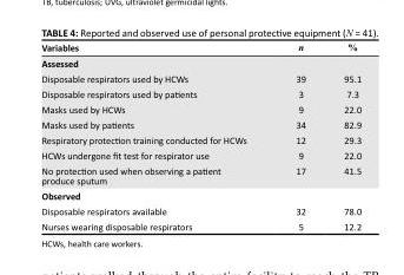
<table><thead><tr><td>Variables</td><td>n</td><td>%</td></tr></thead><tbody><tr><td colspan="3">Assessed</td></tr><tr><td>Disposable respirators used by HCWs</td><td>39</td><td>95.1</td></tr><tr><td>Disposable respirators used by patients</td><td>3</td><td>7.3</td></tr><tr><td>Masks used by HCWs</td><td>9</td><td>22.0</td></tr><tr><td>Masks used by patients</td><td>34</td><td>82.9</td></tr><tr><td>Respiratory protection training conducted for HCWs</td><td>12</td><td>29.3</td></tr><tr><td>HCWs undergone fit test for respirator use</td><td>9</td><td>22.0</td></tr><tr><td>No protection used when observing a patient produce sputum</td><td>17</td><td>41.5</td></tr><tr><td colspan="3">Observed</td></tr><tr><td>Disposable respirators available</td><td>32</td><td>78.0</td></tr><tr><td>Nurses wearing disposable respirators</td><td>5</td><td>12.2</td></tr></tbody></table>